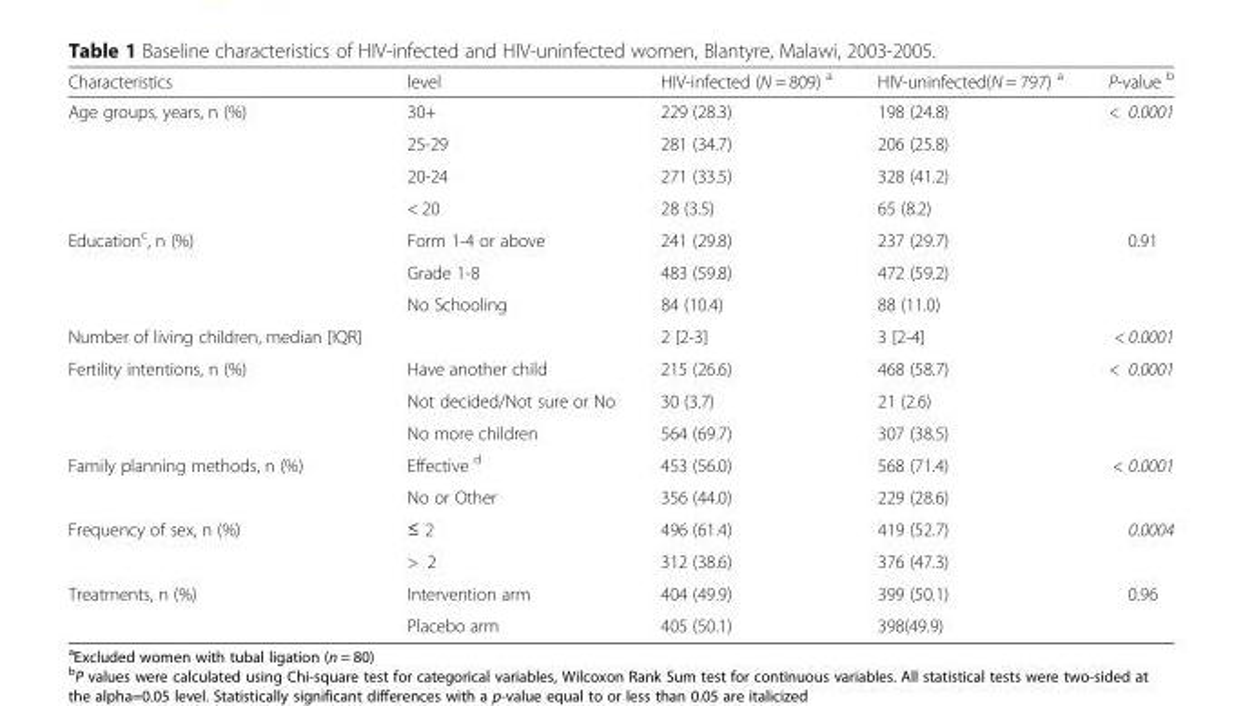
<table><thead><tr><td>Characteristics</td><td>level</td><td>HIV-infected (N = 809) <sup>a</sup></td><td>HIV-uninfected(N = 797) <sup>a</sup></td><td>P-value <sup>b</sup></td></tr></thead><tbody><tr><td rowspan="4">Age groups, years, n (%)</td><td>30+</td><td>229 (28.3)</td><td>198 (24.8)</td><td>&lt; 0.0001</td></tr><tr><td>25-29</td><td>281 (34.7)</td><td>206 (25.8)</td><td></td></tr><tr><td>20-24</td><td>271 (33.5)</td><td>328 (41.2)</td><td></td></tr><tr><td>&lt; 20</td><td>28 (3.5)</td><td>65 (8.2)</td><td></td></tr><tr><td rowspan="3">Education<sup>c</sup>, n (%)</td><td>Form 1-4 or above</td><td>241 (29.8)</td><td>237 (29.7)</td><td>0.91</td></tr><tr><td>Grade 1-8</td><td>483 (59.8)</td><td>472 (59.2)</td><td></td></tr><tr><td>No Schooling</td><td>84 (10.4)</td><td>88 (11.0)</td><td></td></tr><tr><td>Number of living children, median [IQR]</td><td></td><td>2 [2-3]</td><td>3 [2-4]</td><td>&lt; 0.0001</td></tr><tr><td rowspan="3">Fertility intentions, n (%)</td><td>Have another child</td><td>215 (26.6)</td><td>468 (58.7)</td><td>&lt; 0.0001</td></tr><tr><td>Not decided/Not sure or No</td><td>30 (3.7)</td><td>21 (2.6)</td><td></td></tr><tr><td>No more children</td><td>564 (69.7)</td><td>307 (38.5)</td><td></td></tr><tr><td rowspan="2">Family planning methods, n (%)</td><td>Effective <sup>d</sup></td><td>453 (56.0)</td><td>568 (71.4)</td><td>&lt; 0.0001</td></tr><tr><td>No or Other</td><td>356 (44.0)</td><td>229 (28.6)</td><td></td></tr><tr><td rowspan="2">Frequency of sex, n (%)</td><td>≤ 2</td><td>496 (61.4)</td><td>419 (52.7)</td><td>0.0004</td></tr><tr><td>&gt; 2</td><td>312 (38.6)</td><td>376 (47.3)</td><td></td></tr><tr><td rowspan="2">Treatments, n (%)</td><td>Intervention arm</td><td>404 (49.9)</td><td>399 (50.1)</td><td>0.96</td></tr><tr><td>Placebo arm</td><td>405 (50.1)</td><td>398(49.9)</td><td></td></tr></tbody></table>